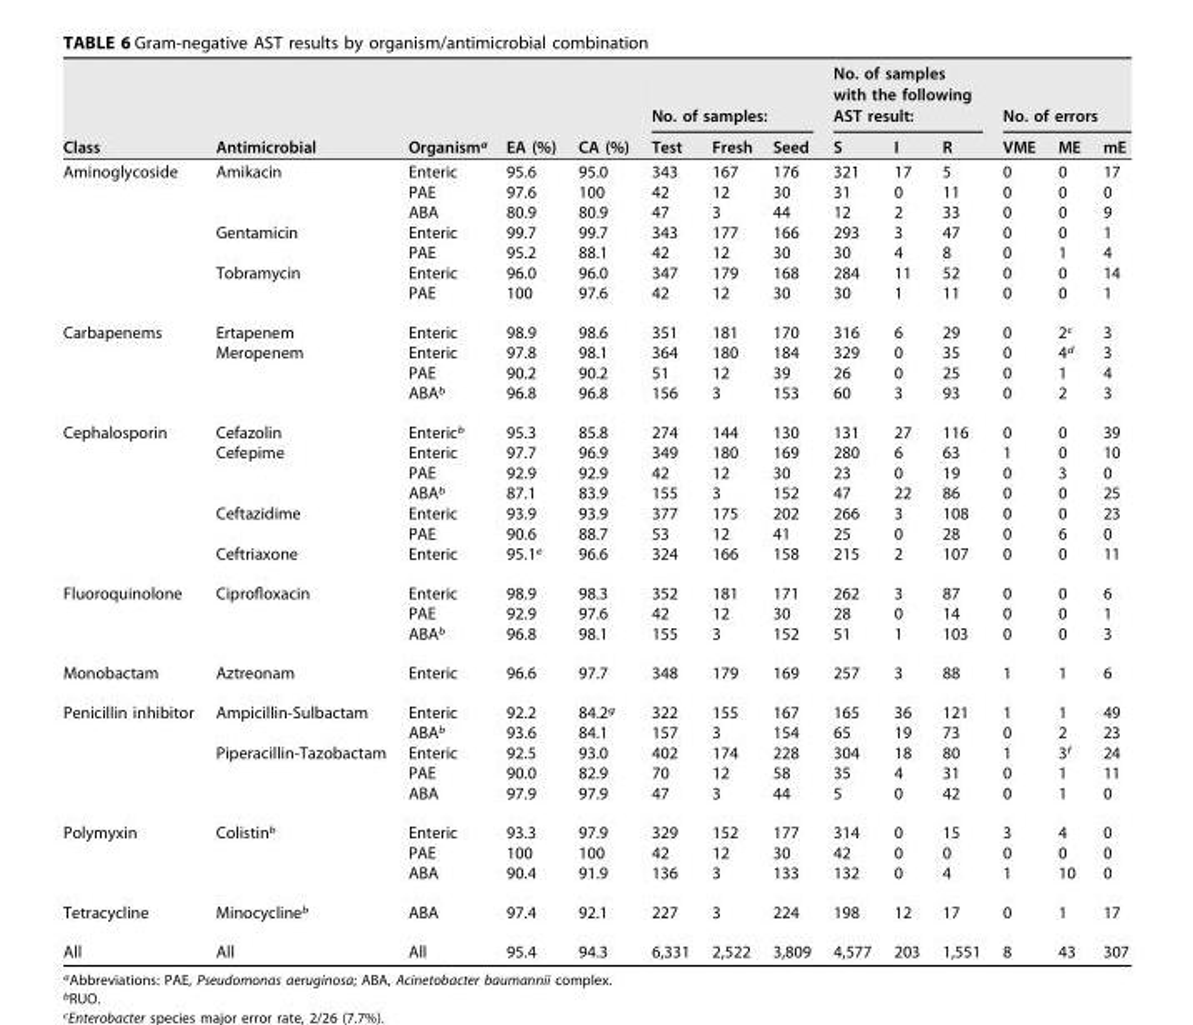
<table><thead><tr><td rowspan="2">Class</td><td rowspan="2">Antimicrobial</td><td rowspan="2">Organism<sup>a</sup></td><td rowspan="2">EA (%)</td><td rowspan="2">CA (%)</td><td colspan="3">No. of samples:</td><td colspan="3">No. of samples with the following AST result:</td><td colspan="3">No. of errors</td></tr><tr><td>Test</td><td>Fresh</td><td>Seed</td><td>S</td><td>I</td><td>R</td><td>VME</td><td>ME</td><td>mE</td></tr></thead><tbody><tr><td rowspan="7">Aminoglycoside</td><td>Amikacin</td><td>Enteric</td><td>95.6</td><td>95.0</td><td>343</td><td>167</td><td>176</td><td>321</td><td>17</td><td>5</td><td>0</td><td>0</td><td>17</td></tr><tr><td></td><td>PAE</td><td>97.6</td><td>100</td><td>42</td><td>12</td><td>30</td><td>31</td><td>0</td><td>11</td><td>0</td><td>0</td><td>0</td></tr><tr><td></td><td>ABA</td><td>80.9</td><td>80.9</td><td>47</td><td>3</td><td>44</td><td>12</td><td>2</td><td>33</td><td>0</td><td>0</td><td>9</td></tr><tr><td>Gentamicin</td><td>Enteric</td><td>99.7</td><td>99.7</td><td>343</td><td>177</td><td>166</td><td>293</td><td>3</td><td>47</td><td>0</td><td>0</td><td>1</td></tr><tr><td></td><td>PAE</td><td>95.2</td><td>88.1</td><td>42</td><td>12</td><td>30</td><td>30</td><td>4</td><td>8</td><td>0</td><td>1</td><td>4</td></tr><tr><td>Tobramycin</td><td>Enteric</td><td>96.0</td><td>96.0</td><td>347</td><td>179</td><td>168</td><td>284</td><td>11</td><td>52</td><td>0</td><td>0</td><td>14</td></tr><tr><td></td><td>PAE</td><td>100</td><td>97.6</td><td>42</td><td>12</td><td>30</td><td>30</td><td>1</td><td>11</td><td>0</td><td>0</td><td>1</td></tr><tr><td rowspan="4">Carbapenems</td><td>Ertapenem</td><td>Enteric</td><td>98.9</td><td>98.6</td><td>351</td><td>181</td><td>170</td><td>316</td><td>6</td><td>29</td><td>0</td><td>2<sup>c</sup></td><td>3</td></tr><tr><td>Meropenem</td><td>Enteric</td><td>97.8</td><td>98.1</td><td>364</td><td>180</td><td>184</td><td>329</td><td>0</td><td>35</td><td>0</td><td>4<sup>d</sup></td><td>3</td></tr><tr><td></td><td>PAE</td><td>90.2</td><td>90.2</td><td>51</td><td>12</td><td>39</td><td>26</td><td>0</td><td>25</td><td>0</td><td>1</td><td>4</td></tr><tr><td></td><td>ABA<sup>b</sup></td><td>96.8</td><td>96.8</td><td>156</td><td>3</td><td>153</td><td>60</td><td>3</td><td>93</td><td>0</td><td>2</td><td>3</td></tr><tr><td rowspan="7">Cephalosporin</td><td>Cefazolin</td><td>Enteric<sup>b</sup></td><td>95.3</td><td>85.8</td><td>274</td><td>144</td><td>130</td><td>131</td><td>27</td><td>116</td><td>0</td><td>0</td><td>39</td></tr><tr><td>Cefepime</td><td>Enteric</td><td>97.7</td><td>96.9</td><td>349</td><td>180</td><td>169</td><td>280</td><td>6</td><td>63</td><td>1</td><td>0</td><td>10</td></tr><tr><td></td><td>PAE</td><td>92.9</td><td>92.9</td><td>42</td><td>12</td><td>30</td><td>23</td><td>0</td><td>19</td><td>0</td><td>3</td><td>0</td></tr><tr><td></td><td>ABA<sup>b</sup></td><td>87.1</td><td>83.9</td><td>155</td><td>3</td><td>152</td><td>47</td><td>22</td><td>86</td><td>0</td><td>0</td><td>25</td></tr><tr><td>Ceftazidime</td><td>Enteric</td><td>93.9</td><td>93.9</td><td>377</td><td>175</td><td>202</td><td>266</td><td>3</td><td>108</td><td>0</td><td>0</td><td>23</td></tr><tr><td></td><td>PAE</td><td>90.6</td><td>88.7</td><td>53</td><td>12</td><td>41</td><td>25</td><td>0</td><td>28</td><td>0</td><td>6</td><td>0</td></tr><tr><td>Ceftriaxone</td><td>Enteric</td><td>95.1<sup>e</sup></td><td>96.6</td><td>324</td><td>166</td><td>158</td><td>215</td><td>2</td><td>107</td><td>0</td><td>0</td><td>11</td></tr><tr><td rowspan="3">Fluoroquinolone</td><td>Ciprofloxacin</td><td>Enteric</td><td>98.9</td><td>98.3</td><td>352</td><td>181</td><td>171</td><td>262</td><td>3</td><td>87</td><td>0</td><td>0</td><td>6</td></tr><tr><td></td><td>PAE</td><td>92.9</td><td>97.6</td><td>42</td><td>12</td><td>30</td><td>28</td><td>0</td><td>14</td><td>0</td><td>0</td><td>1</td></tr><tr><td></td><td>ABA<sup>b</sup></td><td>96.8</td><td>98.1</td><td>155</td><td>3</td><td>152</td><td>51</td><td>1</td><td>103</td><td>0</td><td>0</td><td>3</td></tr><tr><td>Monobactam</td><td>Aztreonam</td><td>Enteric</td><td>96.6</td><td>97.7</td><td>348</td><td>179</td><td>169</td><td>257</td><td>3</td><td>88</td><td>1</td><td>1</td><td>6</td></tr><tr><td rowspan="5">Penicillin inhibitor</td><td>Ampicillin-Sulbactam</td><td>Enteric</td><td>92.2</td><td>84.2<sup>g</sup></td><td>322</td><td>155</td><td>167</td><td>165</td><td>36</td><td>121</td><td>1</td><td>1</td><td>49</td></tr><tr><td></td><td>ABA<sup>b</sup></td><td>93.6</td><td>84.1</td><td>157</td><td>3</td><td>154</td><td>65</td><td>19</td><td>73</td><td>0</td><td>2</td><td>23</td></tr><tr><td>Piperacillin-Tazobactam</td><td>Enteric</td><td>92.5</td><td>93.0</td><td>402</td><td>174</td><td>228</td><td>304</td><td>18</td><td>80</td><td>1</td><td>3<sup>f</sup></td><td>24</td></tr><tr><td></td><td>PAE</td><td>90.0</td><td>82.9</td><td>70</td><td>12</td><td>58</td><td>35</td><td>4</td><td>31</td><td>0</td><td>1</td><td>11</td></tr><tr><td></td><td>ABA</td><td>97.9</td><td>97.9</td><td>47</td><td>3</td><td>44</td><td>5</td><td>0</td><td>42</td><td>0</td><td>1</td><td>0</td></tr><tr><td rowspan="3">Polymyxin</td><td>Colistin<sup>b</sup></td><td>Enteric</td><td>93.3</td><td>97.9</td><td>329</td><td>152</td><td>177</td><td>314</td><td>0</td><td>15</td><td>3</td><td>4</td><td>0</td></tr><tr><td></td><td>PAE</td><td>100</td><td>100</td><td>42</td><td>12</td><td>30</td><td>42</td><td>0</td><td>0</td><td>0</td><td>0</td><td>0</td></tr><tr><td></td><td>ABA</td><td>90.4</td><td>91.9</td><td>136</td><td>3</td><td>133</td><td>132</td><td>0</td><td>4</td><td>1</td><td>10</td><td>0</td></tr><tr><td>Tetracycline</td><td>Minocycline<sup>b</sup></td><td>ABA</td><td>97.4</td><td>92.1</td><td>227</td><td>3</td><td>224</td><td>198</td><td>12</td><td>17</td><td>0</td><td>1</td><td>17</td></tr><tr><td>All</td><td>All</td><td>All</td><td>95.4</td><td>94.3</td><td>6,331</td><td>2,522</td><td>3,809</td><td>4,577</td><td>203</td><td>1,551</td><td>8</td><td>43</td><td>307</td></tr></tbody></table>